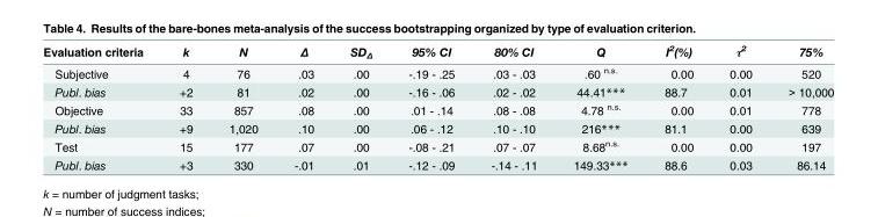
<table><thead><tr><td>Evaluation criteria</td><td>k</td><td>N</td><td>Δ</td><td>SD<sub>Δ</sub></td><td>95% CI</td><td>80% CI</td><td>Q</td><td>I<sup>2</sup>(%)</td><td>τ<sup>2</sup></td><td>75%</td></tr></thead><tbody><tr><td>Subjective</td><td>4</td><td>76</td><td>.03</td><td>.00</td><td>-.19 - .25</td><td>.03 - .03</td><td>.60 <sup>n.s.</sup></td><td>0.00</td><td>0.00</td><td>520</td></tr><tr><td>Publ. bias</td><td>+2</td><td>81</td><td>.02</td><td>.00</td><td>-.16 - .06</td><td>.02 - .02</td><td>44.41***</td><td>88.7</td><td>0.01</td><td>&gt; 10,000</td></tr><tr><td>Objective</td><td>33</td><td>857</td><td>.08</td><td>.00</td><td>.01 - .14</td><td>.08 - .08</td><td>4.78 <sup>n.s.</sup></td><td>0.00</td><td>0.01</td><td>778</td></tr><tr><td>Publ. bias</td><td>+9</td><td>1,020</td><td>.10</td><td>.00</td><td>.06 - .12</td><td>.10 - .10</td><td>216***</td><td>81.1</td><td>0.00</td><td>639</td></tr><tr><td>Test</td><td>15</td><td>177</td><td>.07</td><td>.00</td><td>-.08 - .21</td><td>.07 - .07</td><td>8.68<sup>n.s.</sup></td><td>0.00</td><td>0.00</td><td>197</td></tr><tr><td>Publ. bias</td><td>+3</td><td>330</td><td>-.01</td><td>.01</td><td>-.12 - .09</td><td>-.14 - .11</td><td>149.33***</td><td>88.6</td><td>0.03</td><td>86.14</td></tr></tbody></table>